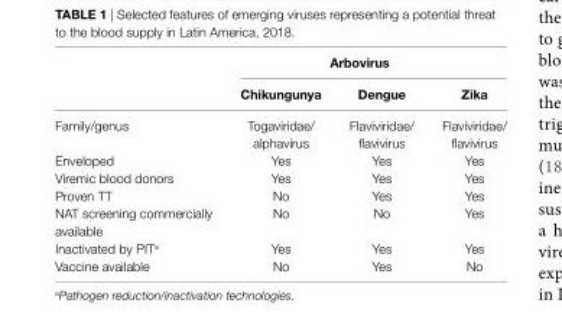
<table><thead><tr><td rowspan="2"></td><td colspan="3">Arbovirus</td></tr><tr><td>chikungunya</td><td>Dengue</td><td>Zika</td></tr></thead><tbody><tr><td>Family/genus</td><td>Togaviridae/ alphavirus</td><td>Flaviviridae/ flavivirus</td><td>Flaviviridae/ flavivirus</td></tr><tr><td>Enveloped</td><td>Yes</td><td>Yes</td><td>Yes</td></tr><tr><td>Viremic blood donors</td><td>Yes</td><td>Yes</td><td>Yes</td></tr><tr><td>Proven TT</td><td>No</td><td>Yes</td><td>Yes</td></tr><tr><td>NAT screening commercially available</td><td>No</td><td>No</td><td>Yes</td></tr><tr><td>Inactivated by PIT<sup>a</sup></td><td>Yes</td><td>Yes</td><td>Yes</td></tr><tr><td>Vaccine available</td><td>No</td><td>Yes</td><td>No</td></tr></tbody></table>